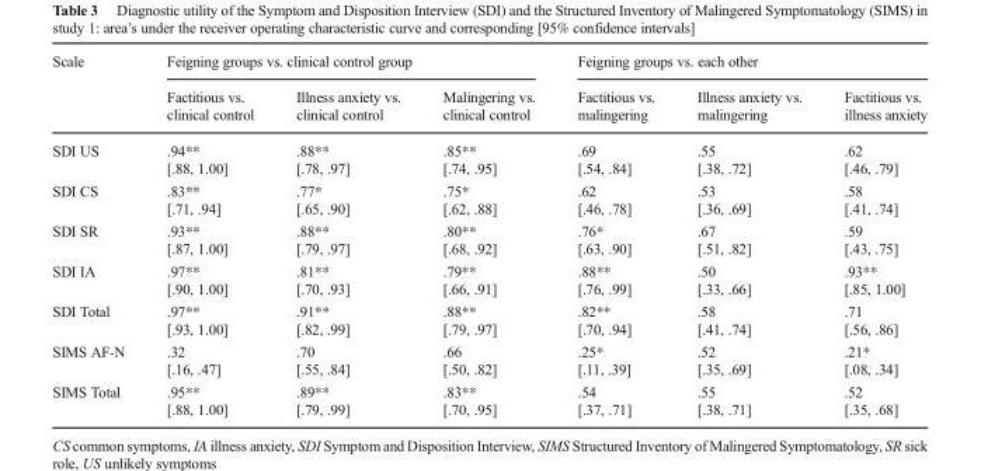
<table><thead><tr><td rowspan="2">Scale</td><td colspan="3">Feigning groups vs. clinical control group</td><td colspan="3">Feigning groups vs. each other</td></tr><tr><td>Factitious vs. clinical control</td><td>Illness anxiety vs. clinical control</td><td>Malingering vs. clinical control</td><td>Factitious vs. malingering</td><td>Illness anxiety vs. malingering</td><td>Factitious vs. illness anxiety</td></tr></thead><tbody><tr><td>SDI US</td><td>.94** [.88, 1.00]</td><td>.88** [.78, .97]</td><td>.85** [.74, .95]</td><td>.69 [.54, .84]</td><td>.55 [.38, .72]</td><td>.62 [.46, .79]</td></tr><tr><td>SDI CS</td><td>.83** [.71, .94]</td><td>.77* [.65, .90]</td><td>.75* [.62, .88]</td><td>.62 [.46, .78]</td><td>.53 [.36, .69]</td><td>.58 [.41, .74]</td></tr><tr><td>SDI SR</td><td>.93** [.87, 1.00]</td><td>.88** [.79, .97]</td><td>.80** [.68, .92]</td><td>.76* [.63, .90]</td><td>.67 [.51, .82]</td><td>.59 [.43, .75]</td></tr><tr><td>SDI IA</td><td>.97** [.90, 1.00]</td><td>.81** [.70, .93]</td><td>.79** [.66, .91]</td><td>.88** [.76, .99]</td><td>.50 [.33, .66]</td><td>.93** [.85, 1.00]</td></tr><tr><td>SDI Total</td><td>.97** [.93, 1.00]</td><td>.91** [.82, .99]</td><td>.88** [.79, .97]</td><td>.82** [.70, .94]</td><td>.58 [.41, .74]</td><td>.71 [.56, .86]</td></tr><tr><td>SIMS AF-N</td><td>.32 [.16, .47]</td><td>.70 [.55, .84]</td><td>.66 [.50, .82]</td><td>.25* [.11, .39]</td><td>.52 [.35, .69]</td><td>.21* [.08, .34]</td></tr><tr><td>SIMS Total</td><td>.95** [.88, 1.00]</td><td>.89** [.79, .99]</td><td>.83** [.70, .95]</td><td>.54 [.37, .71]</td><td>.55 [.38, .71]</td><td>.52 [.35, .68]</td></tr></tbody></table>